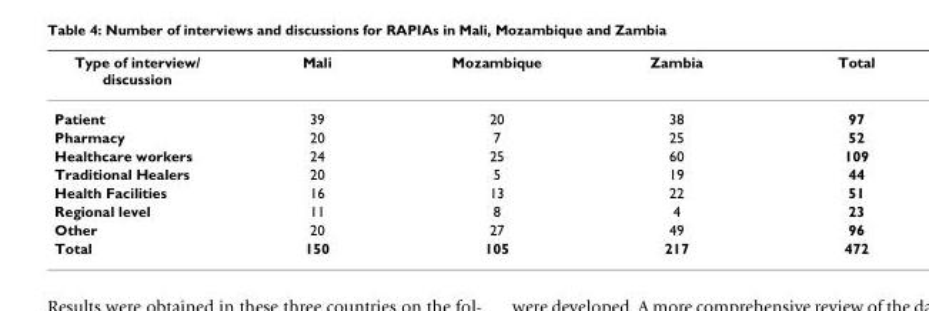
<table><thead><tr><td>Type of interview/ discussion</td><td>Mali</td><td>Mozambique</td><td>Zambia</td><td>Total</td></tr></thead><tbody><tr><td>Patient</td><td>39</td><td>20</td><td>38</td><td>97</td></tr><tr><td>Pharmacy</td><td>20</td><td>7</td><td>25</td><td>52</td></tr><tr><td>Healthcare workers</td><td>24</td><td>25</td><td>60</td><td>109</td></tr><tr><td>Traditional Healers</td><td>20</td><td>5</td><td>19</td><td>44</td></tr><tr><td>Health Facilities</td><td>16</td><td>13</td><td>22</td><td>51</td></tr><tr><td>Regional level</td><td>11</td><td>8</td><td>4</td><td>23</td></tr><tr><td>Other</td><td>20</td><td>27</td><td>49</td><td>96</td></tr><tr><td>Total</td><td>150</td><td>105</td><td>217</td><td>472</td></tr></tbody></table>